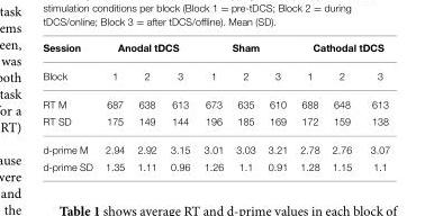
<table><thead><tr><td rowspan="2">Session Block</td><td colspan="3">Anodal tDCS</td><td colspan="3">Sham</td><td colspan="3">Cathodal tDCS</td></tr><tr><td>1</td><td>2</td><td>3</td><td>1</td><td>2</td><td>3</td><td>1</td><td>2</td><td>3</td></tr></thead><tbody><tr><td>RT M</td><td>687</td><td>638</td><td>613</td><td>673</td><td>635</td><td>610</td><td>688</td><td>648</td><td>613</td></tr><tr><td>RT SD</td><td>175</td><td>149</td><td>144</td><td>196</td><td>185</td><td>169</td><td>172</td><td>159</td><td>138</td></tr><tr><td>d-prime M</td><td>2.94</td><td>2.92</td><td>3.15</td><td>3.01</td><td>3.03</td><td>3.21</td><td>2.78</td><td>2.76</td><td>3.07</td></tr><tr><td>d-prime SD</td><td>1.35</td><td>1.11</td><td>0.96</td><td>1.26</td><td>1.1</td><td>0.91</td><td>1.28</td><td>1.15</td><td>1.1</td></tr></tbody></table>